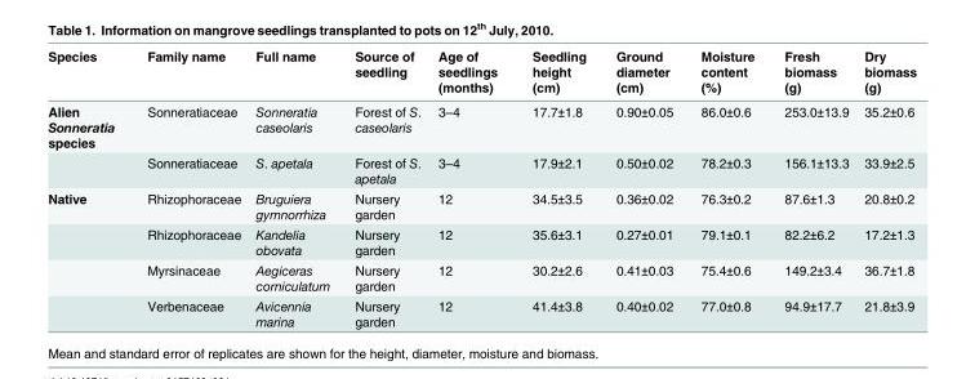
<table><thead><tr><td>Species</td><td>Family name</td><td>Full name</td><td>Source of seedling</td><td>Age of seedlings (months)</td><td>Seedling height (cm)</td><td>Ground diameter (cm)</td><td>Moisture content (%)</td><td>Fresh biomass (g)</td><td>Dry biomass (g)</td></tr></thead><tbody><tr><td rowspan="2">Alien Sonneratia species</td><td>Sonneratiaceae</td><td>Sonneratia caseolaris</td><td>Forest of S. caseolaris</td><td>3–4</td><td>17.7±1.8</td><td>0.90±0.05</td><td>86.0±0.6</td><td>253.0±13.9</td><td>35.2±0.6</td></tr><tr><td>Sonneratiaceae</td><td>S. apetala</td><td>Forest of S. apetala</td><td>3–4</td><td>17.9±2.1</td><td>0.50±0.02</td><td>78.2±0.3</td><td>156.1±13.3</td><td>33.9±2.5</td></tr><tr><td rowspan="4">Native</td><td>Rhizophoraceae</td><td>Bruguiera gymnorrhiza</td><td>Nursery garden</td><td>12</td><td>34.5±3.5</td><td>0.36±0.02</td><td>76.3±0.2</td><td>87.6±1.3</td><td>20.8±0.2</td></tr><tr><td>Rhizophoraceae</td><td>Kandelia obovata</td><td>Nursery garden</td><td>12</td><td>35.6±3.1</td><td>0.27±0.01</td><td>79.1±0.1</td><td>82.2±6.2</td><td>17.2±1.3</td></tr><tr><td>Myrsinaceae</td><td>Aegiceras corniculatum</td><td>Nursery garden</td><td>12</td><td>30.2±2.6</td><td>0.41±0.03</td><td>75.4±0.6</td><td>149.2±3.4</td><td>36.7±1.8</td></tr><tr><td>Verbenaceae</td><td>Avicennia marina</td><td>Nursery garden</td><td>12</td><td>41.4±3.8</td><td>0.40±0.02</td><td>77.0±0.8</td><td>94.9±17.7</td><td>21.8±3.9</td></tr></tbody></table>